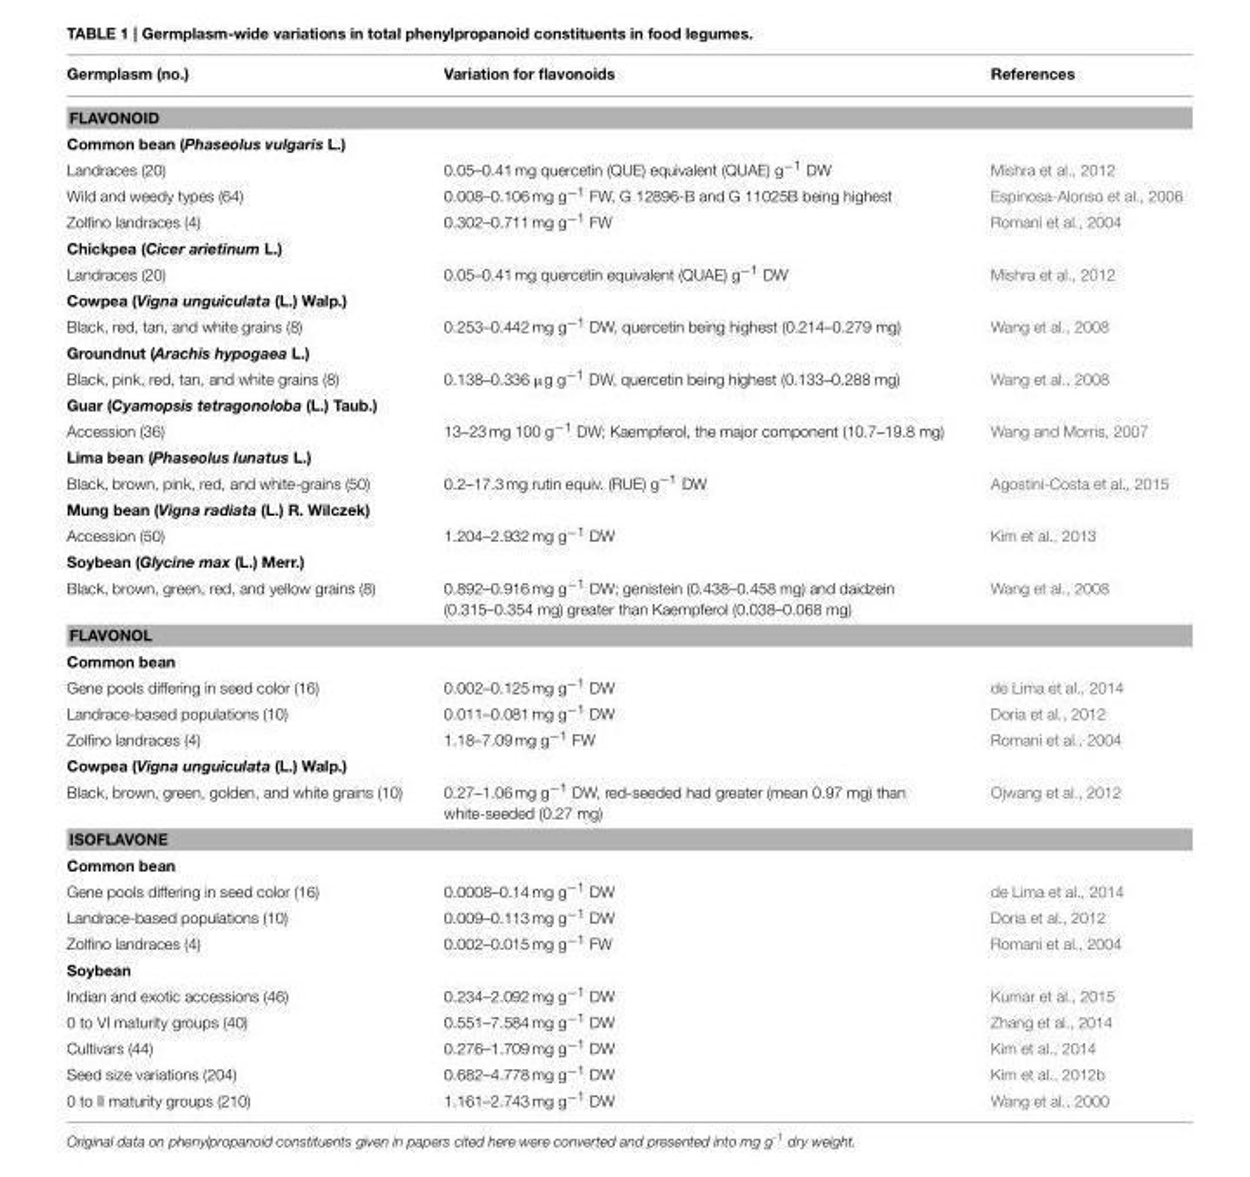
<table><thead><tr><td>Germplasm (no.)</td><td>Variation for flavonoids</td><td>References</td></tr></thead><tbody><tr><td colspan="3">FLAVONOID</td></tr><tr><td colspan="3">Common bean (Phaseolus vulgaris L.)</td></tr><tr><td>Landraces (20)</td><td>0.05–0.41 mg quercetin (QUE) equivalent (QUAE) g<sup>−1</sup> DW</td><td>Mishra et al., 2012</td></tr><tr><td>Wild and weedy types (64)</td><td>0.008–0.106 mg g<sup>−1</sup> FW, G 12896-B and G 11025B being highest</td><td>Espinosa-Alonso et al., 2006</td></tr><tr><td>Zolfino landraces (4)</td><td>0.302–0.711 mg g<sup>−1</sup> FW</td><td>Romani et al., 2004</td></tr><tr><td colspan="3">Chickpea (Cicer arietinum L.)</td></tr><tr><td>Landraces (20)</td><td>0.05–0.41 mg quercetin equivalent (QUAE) g<sup>−1</sup> DW</td><td>Mishra et al., 2012</td></tr><tr><td colspan="3">Cowpea (Vigna unguiculata (L.) Walp.)</td></tr><tr><td>Black, red, tan, and white grains (8)</td><td>0.253–0.442 mg g<sup>−1</sup> DW, quercetin being highest (0.214–0.279 mg)</td><td>Wang et al., 2008</td></tr><tr><td colspan="3">Groundnut (Arachis hypogaea L.)</td></tr><tr><td>Black, pink, red, tan, and white grains (8)</td><td>0.138–0.336 µg g<sup>−1</sup> DW, quercetin being highest (0.133–0.288 mg)</td><td>Wang et al., 2008</td></tr><tr><td colspan="3">Guar (Cyamopsis tetragonoloba (L.) Taub.)</td></tr><tr><td>Accession (36)</td><td>13–23 mg 100 g<sup>−1</sup> DW; Kaempferol, the major component (10.7–19.8 mg)</td><td>Wang and Morris, 2007</td></tr><tr><td colspan="3">Lima bean (Phaseolus lunatus L.)</td></tr><tr><td>Black, brown, pink, red, and white-grains (50)</td><td>0.2–17.3 mg rutin equiv. (RUE) g<sup>−1</sup> DW</td><td>Agostini-Costa et al., 2015</td></tr><tr><td colspan="3">Mung bean (Vigna radiata (L.) R. Wilczek)</td></tr><tr><td>Accession (50)</td><td>1.204–2.932 mg g<sup>−1</sup> DW</td><td>Kim et al., 2013</td></tr><tr><td colspan="3">Soybean (Glycine max (L.) Merr.)</td></tr><tr><td>Black, brown, green, red, and yellow grains (8)</td><td>0.892–0.916 mg g<sup>−1</sup> DW; genistein (0.438–0.458 mg) and daidzein (0.315–0.354 mg) greater than Kaempferol (0.038–0.068 mg)</td><td>Wang et al., 2008</td></tr><tr><td colspan="3">FLAVONOL</td></tr><tr><td colspan="3">Common bean</td></tr><tr><td>Gene pools differing in seed color (16)</td><td>0.002–0.125 mg g<sup>−1</sup> DW</td><td>de Lima et al., 2014</td></tr><tr><td>Landrace-based populations (10)</td><td>0.011–0.081 mg g<sup>−1</sup> DW</td><td>Doria et al., 2012</td></tr><tr><td>Zolfino landraces (4)</td><td>1.18–7.09 mg g<sup>−1</sup> FW</td><td>Romani et al., 2004</td></tr><tr><td colspan="3">Cowpea (Vigna unguiculata (L.) Walp.)</td></tr><tr><td>Black, brown, green, golden, and white grains (10)</td><td>0.27–1.06 mg g<sup>−1</sup> DW, red-seeded had greater (mean 0.97 mg) than white-seeded (0.27 mg)</td><td>Ojwang et al., 2012</td></tr><tr><td colspan="3">ISOFLAVONE</td></tr><tr><td colspan="3">Common bean</td></tr><tr><td>Gene pools differing in seed color (16)</td><td>0.0008–0.14 mg g<sup>−1</sup> DW</td><td>de Lima et al., 2014</td></tr><tr><td>Landrace-based populations (10)</td><td>0.009–0.113 mg g<sup>−1</sup> DW</td><td>Doria et al., 2012</td></tr><tr><td>Zolfino landraces (4)</td><td>0.002–0.015 mg g<sup>−1</sup> FW</td><td>Romani et al., 2004</td></tr><tr><td colspan="3">Soybean</td></tr><tr><td>Indian and exotic accessions (46)</td><td>0.234–2.092 mg g<sup>−1</sup> DW</td><td>Kumar et al., 2015</td></tr><tr><td>0 to VI maturity groups (40)</td><td>0.551–7.584 mg g<sup>−1</sup> DW</td><td>Zhang et al., 2014</td></tr><tr><td>Cultivars (44)</td><td>0.276–1.709 mg g<sup>−1</sup> DW</td><td>Kim et al., 2014</td></tr><tr><td>Seed size variations (204)</td><td>0.682–4.778 mg g<sup>−1</sup> DW</td><td>Kim et al., 2012b</td></tr><tr><td>0 to II maturity groups (210)</td><td>1.161–2.743 mg g<sup>−1</sup> DW</td><td>Wang et al., 2000</td></tr></tbody></table>